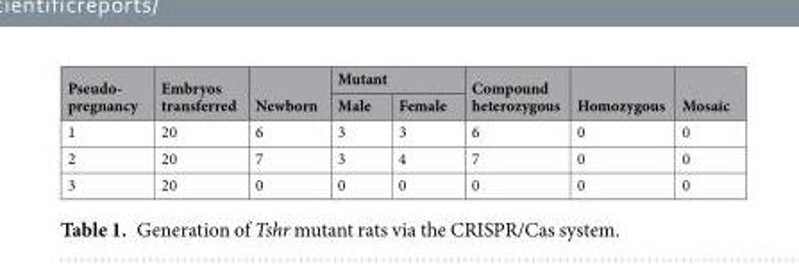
<table><thead><tr><td rowspan="2">Pseudo- pregnancy</td><td rowspan="2">Embryos transferred</td><td rowspan="2">Newborn</td><td colspan="2">Mutant</td><td rowspan="2">Compound heterozygous</td><td rowspan="2">Homozygous</td><td rowspan="2">Mosaic</td></tr><tr><td>Male</td><td>Female</td></tr></thead><tbody><tr><td>1</td><td>20</td><td>6</td><td>3</td><td>3</td><td>6</td><td>0</td><td>0</td></tr><tr><td>2</td><td>20</td><td>7</td><td>3</td><td>4</td><td>7</td><td>0</td><td>0</td></tr><tr><td>3</td><td>20</td><td>0</td><td>0</td><td>0</td><td>0</td><td>0</td><td>0</td></tr></tbody></table>